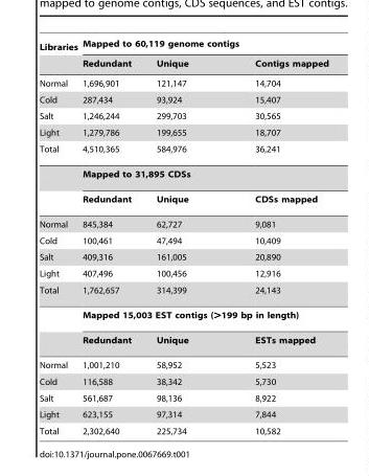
<table><thead><tr><td rowspan="2">Libraries</td><td colspan="3">Mapped to 60,119 genome contigs</td></tr><tr><td>Redundant</td><td>Unique</td><td>Contigs mapped</td></tr></thead><tbody><tr><td>Normal</td><td>1,696,901</td><td>121,147</td><td>14,704</td></tr><tr><td>Cold</td><td>287,434</td><td>93,924</td><td>15,407</td></tr><tr><td>Salt</td><td>1,246,244</td><td>299,703</td><td>30,565</td></tr><tr><td>Light</td><td>1,279,786</td><td>199,655</td><td>18,707</td></tr><tr><td rowspan="3">Total</td><td>4,510,365</td><td>584,976</td><td>36,241</td></tr><tr><td colspan="3">Mapped to 31,895 CDSs</td></tr><tr><td>Redundant</td><td>Unique</td><td>CDSs mapped</td></tr><tr><td>Normal</td><td>845,384</td><td>62,727</td><td>9,081</td></tr><tr><td>Cold</td><td>100,461</td><td>47,494</td><td>10,409</td></tr><tr><td>Salt</td><td>409,316</td><td>161,005</td><td>20,890</td></tr><tr><td>Light</td><td>407,496</td><td>100,456</td><td>12,916</td></tr><tr><td rowspan="3">Total</td><td>1,762,657</td><td>314,399</td><td>24,143</td></tr><tr><td colspan="3">Mapped 15,003 EST contigs (&gt;199 bp in length)</td></tr><tr><td>Redundant</td><td>Unique</td><td>ESTs mapped</td></tr><tr><td>Normal</td><td>1,001,210</td><td>58,952</td><td>5,523</td></tr><tr><td>Cold</td><td>116,588</td><td>38,342</td><td>5,730</td></tr><tr><td>Salt</td><td>561,687</td><td>98,136</td><td>8,922</td></tr><tr><td>Light</td><td>623,155</td><td>97,314</td><td>7,844</td></tr><tr><td>Total</td><td>2,302,640</td><td>225,734</td><td>10,582</td></tr></tbody></table>